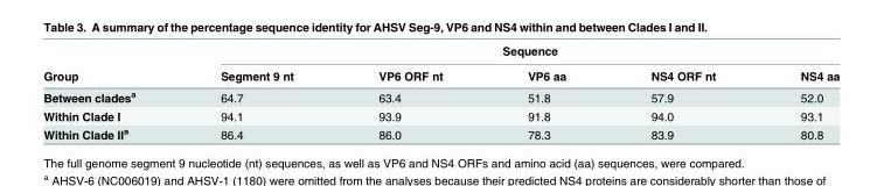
<table><thead><tr><td rowspan="2">Group</td><td colspan="5">Sequence</td></tr><tr><td>Segment 9 nt</td><td>VP6 ORF nt</td><td>VP6 aa</td><td>NS4 ORF nt</td><td>NS4 aa</td></tr></thead><tbody><tr><td>Between clades<sup>a</sup></td><td>64.7</td><td>63.4</td><td>51.8</td><td>57.9</td><td>52.0</td></tr><tr><td>Within Clade I</td><td>94.1</td><td>93.9</td><td>91.8</td><td>94.0</td><td>93.1</td></tr><tr><td>Within Clade II<sup>a</sup></td><td>86.4</td><td>86.0</td><td>78.3</td><td>83.9</td><td>80.8</td></tr></tbody></table>